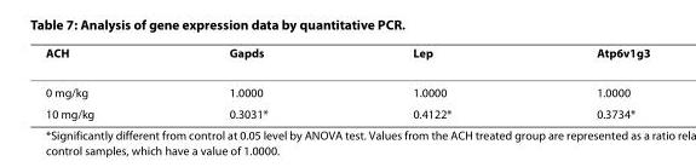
<table><thead><tr><td>ACH</td><td>Gapds</td><td>Lep</td><td>Atp6v1g3</td></tr></thead><tbody><tr><td>0 mg/kg</td><td>1.0000</td><td>1.0000</td><td>1.0000</td></tr><tr><td>10 mg/kg</td><td>0.3031*</td><td>0.4122*</td><td>0.3734*</td></tr></tbody></table>